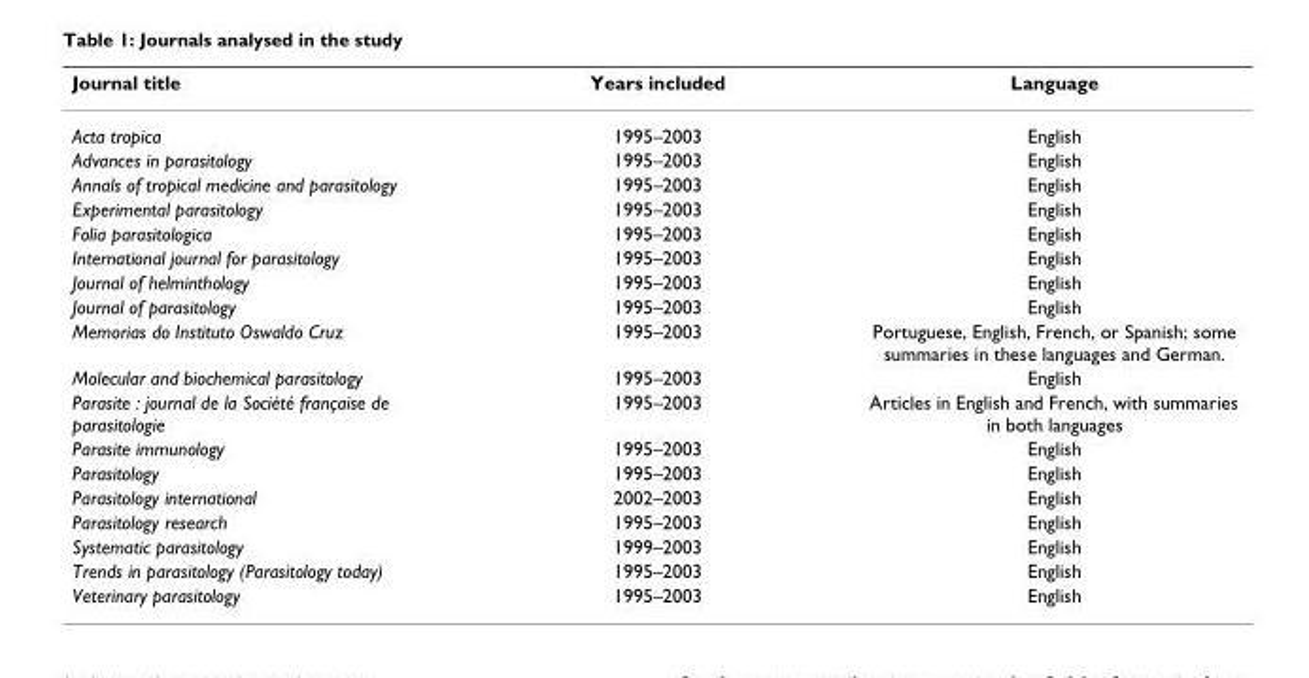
<table><thead><tr><td>Journal title</td><td>Years included</td><td>Language</td></tr></thead><tbody><tr><td>Acta tropica</td><td>1995–2003</td><td>English</td></tr><tr><td>Advances in parasitology</td><td>1995–2003</td><td>English</td></tr><tr><td>Annals of tropical medicine and parasitology</td><td>1995–2003</td><td>English</td></tr><tr><td>Experimental parasitology</td><td>1995–2003</td><td>English</td></tr><tr><td>Folia parasitologica</td><td>1995–2003</td><td>English</td></tr><tr><td>International journal for parasitology</td><td>1995–2003</td><td>English</td></tr><tr><td>Journal of helminthology</td><td>1995–2003</td><td>English</td></tr><tr><td>Journal of parasitology</td><td>1995–2003</td><td>English</td></tr><tr><td>Memorias do Instituto Oswaldo Cruz</td><td>1995–2003</td><td>Portuguese, English, French, or Spanish; some summaries in these languages and German.</td></tr><tr><td>Molecular and biochemical parasitology</td><td>1995–2003</td><td>English</td></tr><tr><td>Parasite : journal de la Société française de parasitologie</td><td>1995–2003</td><td>Articles in English and French, with summaries in both languages</td></tr><tr><td>Parasite immunology</td><td>1995–2003</td><td>English</td></tr><tr><td>Parasitology</td><td>1995–2003</td><td>English</td></tr><tr><td>Parasitology international</td><td>2002–2003</td><td>English</td></tr><tr><td>Parasitology research</td><td>1995–2003</td><td>English</td></tr><tr><td>Systematic parasitology</td><td>1999–2003</td><td>English</td></tr><tr><td>Trends in parasitology (Parasitology today)</td><td>1995–2003</td><td>English</td></tr><tr><td>Veterinary parasitology</td><td>1995–2003</td><td>English</td></tr></tbody></table>